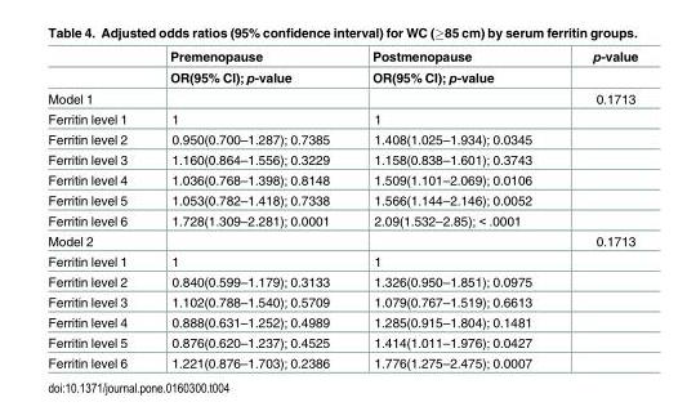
<table><thead><tr><td rowspan="2"></td><td rowspan="2">Premenopause OR(95% CI); p-value</td><td rowspan="2">Postmenopause OR(95% CI); p-value</td><td rowspan="2">p-value</td></tr><tr></tr></thead><tbody><tr><td>Model 1</td><td></td><td></td><td>0.1713</td></tr><tr><td>Ferritin level 1</td><td>1</td><td>1</td><td></td></tr><tr><td>Ferritin level 2</td><td>0.950(0.700–1.287); 0.7385</td><td>1.408(1.025–1.934); 0.0345</td><td></td></tr><tr><td>Ferritin level 3</td><td>1.160(0.864–1.556); 0.3229</td><td>1.158(0.838–1.601); 0.3743</td><td></td></tr><tr><td>Ferritin level 4</td><td>1.036(0.768–1.398); 0.8148</td><td>1.509(1.101–2.069); 0.0106</td><td></td></tr><tr><td>Ferritin level 5</td><td>1.053(0.782–1.418); 0.7338</td><td>1.566(1.144–2.146); 0.0052</td><td></td></tr><tr><td>Ferritin level 6</td><td>1.728(1.309–2.281); 0.0001</td><td>2.09(1.532–2.85); &lt; .0001</td><td></td></tr><tr><td>Model 2</td><td></td><td></td><td>0.1713</td></tr><tr><td>Ferritin level 1</td><td>1</td><td>1</td><td></td></tr><tr><td>Ferritin level 2</td><td>0.840(0.599–1.179); 0.3133</td><td>1.326(0.950–1.851); 0.0975</td><td></td></tr><tr><td>Ferritin level 3</td><td>1.102(0.788–1.540); 0.5709</td><td>1.079(0.767–1.519); 0.6613</td><td></td></tr><tr><td>Ferritin level 4</td><td>0.888(0.631–1.252); 0.4989</td><td>1.285(0.915–1.804); 0.1481</td><td></td></tr><tr><td>Ferritin level 5</td><td>0.876(0.620–1.237); 0.4525</td><td>1.414(1.011–1.976); 0.0427</td><td></td></tr><tr><td>Ferritin level 6</td><td>1.221(0.876–1.703); 0.2386</td><td>1.776(1.275–2.475); 0.0007</td><td></td></tr></tbody></table>